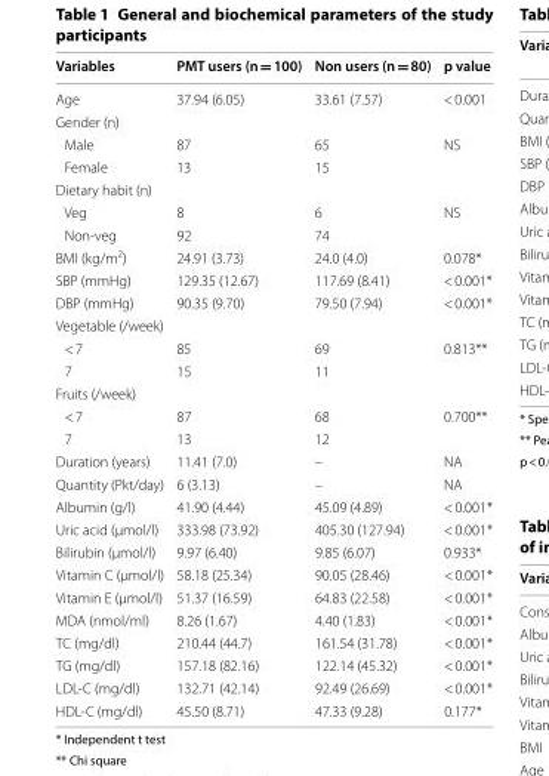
<table><thead><tr><td>Variables</td><td>PMT users (n = 100)</td><td>Non users (n = 80)</td><td>p value</td></tr></thead><tbody><tr><td>Age</td><td>37.94 (6.05)</td><td>33.61 (7.57)</td><td>&lt; 0.001</td></tr><tr><td colspan="4">Gender (n)</td></tr><tr><td>Male</td><td>87</td><td>65</td><td>NS</td></tr><tr><td>Female</td><td>13</td><td>15</td><td></td></tr><tr><td colspan="4">Dietary habit (n)</td></tr><tr><td>Veg</td><td>8</td><td>6</td><td>NS</td></tr><tr><td>Non-veg</td><td>92</td><td>74</td><td></td></tr><tr><td>BMI (kg/m<sup>2</sup>)</td><td>24.91 (3.73)</td><td>24.0 (4.0)</td><td>0.078*</td></tr><tr><td>SBP (mmHg)</td><td>129.35 (12.67)</td><td>117.69 (8.41)</td><td>&lt; 0.001*</td></tr><tr><td>DBP (mmHg)</td><td>90.35 (9.70)</td><td>79.50 (7.94)</td><td>&lt; 0.001*</td></tr><tr><td colspan="4">Vegetable (/week)</td></tr><tr><td>&lt; 7</td><td>85</td><td>69</td><td>0.813**</td></tr><tr><td>7</td><td>15</td><td>11</td><td></td></tr><tr><td colspan="4">Fruits (/week)</td></tr><tr><td>&lt; 7</td><td>87</td><td>68</td><td>0.700**</td></tr><tr><td>7</td><td>13</td><td>12</td><td></td></tr><tr><td>Duration (years)</td><td>11.41 (7.0)</td><td>–</td><td>NA</td></tr><tr><td>Quantity (Pkt/day)</td><td>6 (3.13)</td><td>–</td><td>NA</td></tr><tr><td>Albumin (g/l)</td><td>41.90 (4.44)</td><td>45.09 (4.89)</td><td>&lt; 0.001*</td></tr><tr><td>Uric acid (μmol/l)</td><td>333.98 (73.92)</td><td>405.30 (127.94)</td><td>&lt; 0.001*</td></tr><tr><td>Bilirubin (μmol/l)</td><td>9.97 (6.40)</td><td>9.85 (6.07)</td><td>0.933*</td></tr><tr><td>Vitamin C (μmol/l)</td><td>58.18 (25.34)</td><td>90.05 (28.46)</td><td>&lt; 0.001*</td></tr><tr><td>Vitamin E (μmol/l)</td><td>51.37 (16.59)</td><td>64.83 (22.58)</td><td>&lt; 0.001*</td></tr><tr><td>MDA (nmol/ml)</td><td>8.26 (1.67)</td><td>4.40 (1.83)</td><td>&lt; 0.001*</td></tr><tr><td>TC (mg/dl)</td><td>210.44 (44.7)</td><td>161.54 (31.78)</td><td>&lt; 0.001*</td></tr><tr><td>TG (mg/dl)</td><td>157.18 (82.16)</td><td>122.14 (45.32)</td><td>&lt; 0.001*</td></tr><tr><td>LDL-C (mg/dl)</td><td>132.71 (42.14)</td><td>92.49 (26.69)</td><td>&lt; 0.001*</td></tr><tr><td>HDL-C (mg/dl)</td><td>45.50 (8.71)</td><td>47.33 (9.28)</td><td>0.177*</td></tr></tbody></table>